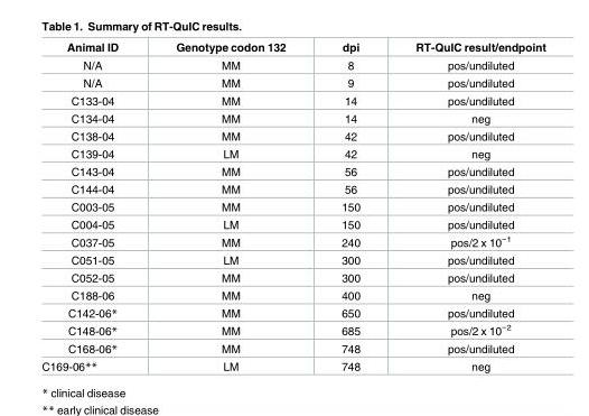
<table><thead><tr><td>Animal ID</td><td>Genotype codon 132</td><td>dpi</td><td>RT-QuIC result/endpoint</td></tr></thead><tbody><tr><td>N/A</td><td>MM</td><td>8</td><td>pos/undiluted</td></tr><tr><td>N/A</td><td>MM</td><td>9</td><td>pos/undiluted</td></tr><tr><td>C133-04</td><td>MM</td><td>14</td><td>pos/undiluted</td></tr><tr><td>C134-04</td><td>MM</td><td>14</td><td>neg</td></tr><tr><td>C138-04</td><td>MM</td><td>42</td><td>pos/undiluted</td></tr><tr><td>C139-04</td><td>LM</td><td>42</td><td>neg</td></tr><tr><td>C143-04</td><td>MM</td><td>56</td><td>pos/undiluted</td></tr><tr><td>C144-04</td><td>MM</td><td>56</td><td>pos/undiluted</td></tr><tr><td>C003-05</td><td>MM</td><td>150</td><td>pos/undiluted</td></tr><tr><td>C004-05</td><td>LM</td><td>150</td><td>pos/undiluted</td></tr><tr><td>C037-05</td><td>MM</td><td>240</td><td>pos/2 x 10<sup>−1</sup></td></tr><tr><td>C051-05</td><td>LM</td><td>300</td><td>pos/undiluted</td></tr><tr><td>C052-05</td><td>MM</td><td>300</td><td>pos/undiluted</td></tr><tr><td>C188-06</td><td>MM</td><td>400</td><td>neg</td></tr><tr><td>C142-06*</td><td>MM</td><td>650</td><td>pos/undiluted</td></tr><tr><td>C148-06*</td><td>MM</td><td>685</td><td>pos/2 x 10<sup>−2</sup></td></tr><tr><td>C168-06*</td><td>MM</td><td>748</td><td>pos/undiluted</td></tr><tr><td>C169-06**</td><td>LM</td><td>748</td><td>neg</td></tr></tbody></table>